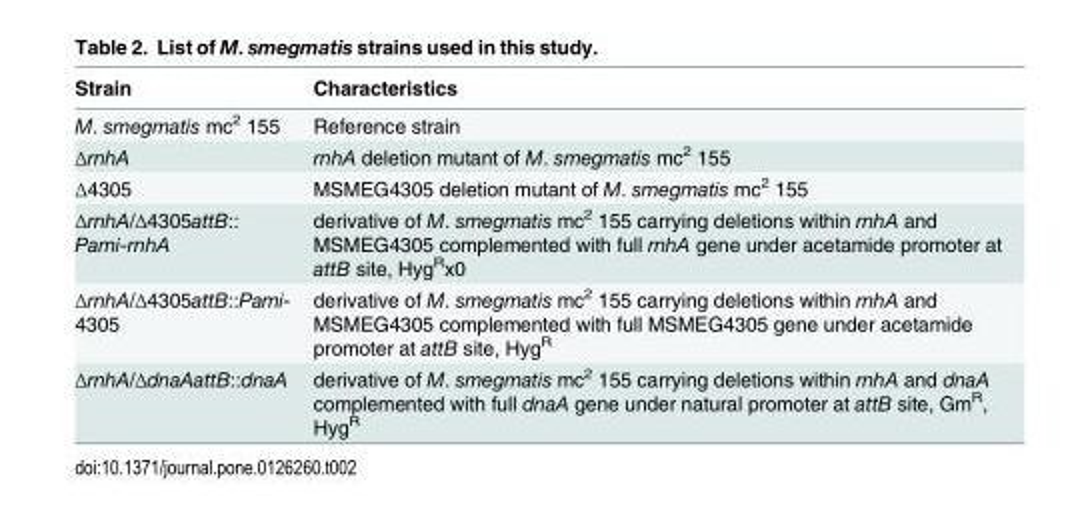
<table><thead><tr><td>Strain</td><td>Characteristics</td></tr></thead><tbody><tr><td>M. smegmatis mc<sup>2</sup> 155</td><td>Reference strain</td></tr><tr><td>ΔrnhA</td><td>rnhA deletion mutant of M. smegmatis mc<sup>2</sup> 155</td></tr><tr><td>Δ4305</td><td>MSMEG4305 deletion mutant of M. smegmatis mc<sup>2</sup> 155</td></tr><tr><td>ΔrnhA/Δ4305attB:: Pami-rnhA</td><td>derivative of M. smegmatis mc2 155 carrying deletions within rnhA and MSMEG4305 complemented with full rnhA gene under acetamide promoter at attB site, HygRx0</td></tr><tr><td>ΔrnhA/Δ4305attB::Pami- 4305</td><td>derivative of M. smegmatis mc<sup>2</sup> 155 carrying deletions within rnhA and MSMEG4305 complemented with full MSMEG4305 gene under acetamide promoter at attB site, Hyg<sup>R</sup></td></tr><tr><td>ΔrnhA/ΔdnaAattB::dnaA</td><td>derivative of M. smegmatis mc<sup>2</sup> 155 carrying deletions within rnhA and dnaA complemented with full dnaA gene under natural promoter at attB site, Gm<sup>R</sup>, Hyg<sup>R</sup></td></tr></tbody></table>